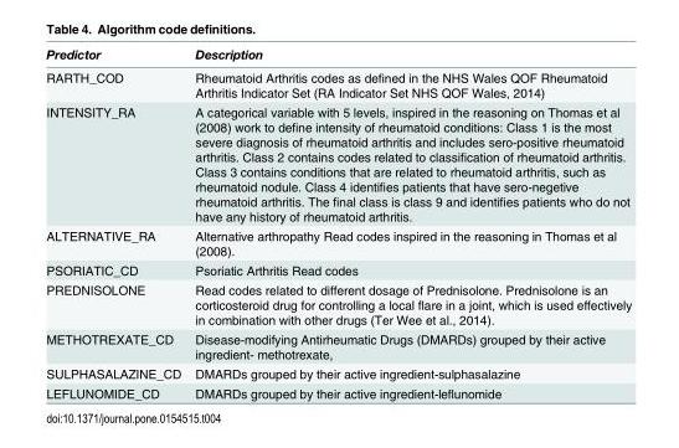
<table><thead><tr><td>Predictor</td><td>Description</td></tr></thead><tbody><tr><td>RARTH_COD</td><td>Rheumatoid Arthritis codes as defined in the NHS Wales QOF Rheumatoid Arthritis Indicator Set (RA Indicator Set NHS QOF Wales, 2014)</td></tr><tr><td>INTENSITY_RA</td><td>A categorical variable with 5 levels, inspired in the reasoning on Thomas et al (2008) work to define intensity of rheumatoid conditions: Class 1 is the most severe diagnosis of rheumatoid arthritis and includes sero-positive rheumatoid arthritis. Class 2 contains codes related to classification of rheumatoid arthritis. Class 3 contains conditions that are related to rheumatoid arthritis, such as rheumatoid nodule. Class 4 identifies patients that have sero-negetive rheumatoid arthritis. The final class is class 9 and identifies patients who do not have any history of rheumatoid arthritis.</td></tr><tr><td>ALTERNATIVE_RA</td><td>Alternative arthropathy Read codes inspired in the reasoning in Thomas et al (2008).</td></tr><tr><td>PSORIATIC_CD</td><td>Psoriatic Arthritis Read codes</td></tr><tr><td>PREDNISOLONE</td><td>Read codes related to different dosage of Prednisolone. Prednisolone is an corticosteroid drug for controlling a local flare in a joint, which is used effectively in combination with other drugs (Ter Wee et al., 2014).</td></tr><tr><td>METHOTREXATE_CD</td><td>Disease-modifying Antirheumatic Drugs (DMARDs) grouped by their active ingredient- methotrexate,</td></tr><tr><td>SULPHASALAZINE_CD</td><td>DMARDs grouped by their active ingredient-sulphasalazine</td></tr><tr><td>LEFLUNOMIDE_CD</td><td>DMARDs grouped by their active ingredient-leflunomide</td></tr></tbody></table>